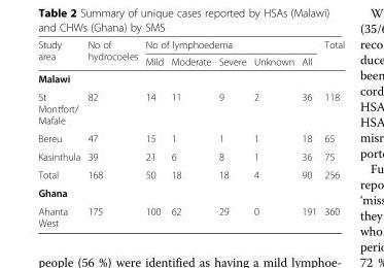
<table><thead><tr><td rowspan="2">Study area</td><td rowspan="2">No of hydrocoeles</td><td colspan="5">No of lymphoedema</td><td rowspan="2">Total</td></tr><tr><td>Mild</td><td>Moderate</td><td>Severe</td><td>Unknown</td><td>All</td></tr></thead><tbody><tr><td colspan="8">Malawi</td></tr><tr><td>St Montfort/ Mafale</td><td>82</td><td>14</td><td>11</td><td>9</td><td>2</td><td>36</td><td>118</td></tr><tr><td>Bereu</td><td>47</td><td>15</td><td>1</td><td>1</td><td>1</td><td>18</td><td>65</td></tr><tr><td>Kasinthula</td><td>39</td><td>21</td><td>6</td><td>8</td><td>1</td><td>36</td><td>75</td></tr><tr><td>Total</td><td>168</td><td>50</td><td>18</td><td>18</td><td>4</td><td>90</td><td>256</td></tr><tr><td colspan="8">Ghana</td></tr><tr><td>Ahanta West</td><td>175</td><td>100</td><td>62</td><td>29</td><td>0</td><td>191</td><td>360</td></tr></tbody></table>